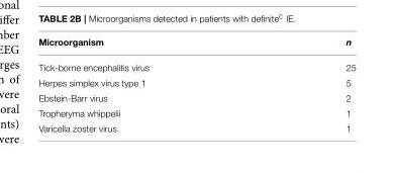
<table><thead><tr><td>Microorganism</td><td>n</td></tr></thead><tbody><tr><td>Tick-borne encephalitis virus</td><td>25</td></tr><tr><td>Herpes simplex virus type 1</td><td>5</td></tr><tr><td>Ebstein-Barr virus</td><td>2</td></tr><tr><td>Tropheryma whippelii</td><td>1</td></tr><tr><td>Varicella zoster virus</td><td>1</td></tr></tbody></table>